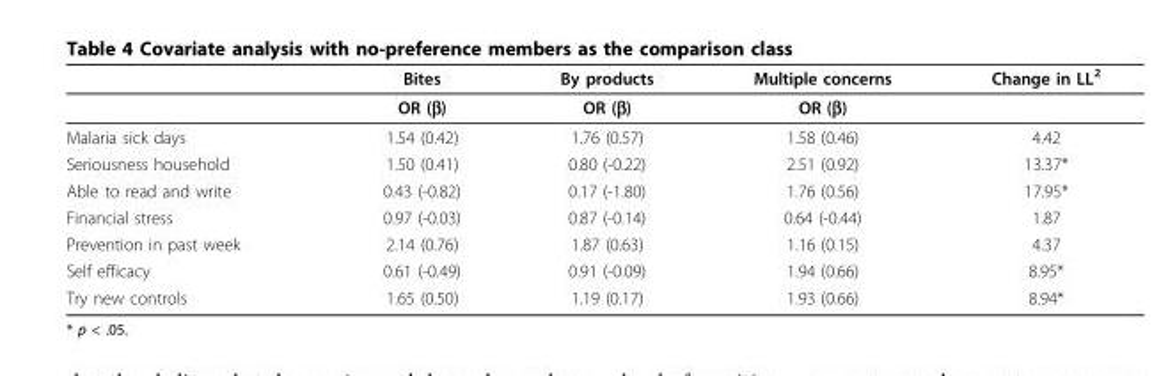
<table><thead><tr><td></td><td>Bites</td><td>By products</td><td>Multiple concerns</td><td>Change in LL<sup>2</sup></td></tr></thead><tbody><tr><td></td><td>OR (β)</td><td>OR (β)</td><td>OR (β)</td><td></td></tr><tr><td>Malaria sick days</td><td>1.54 (0.42)</td><td>1.76 (0.57)</td><td>1.58 (0.46)</td><td>4.42</td></tr><tr><td>Seriousness household</td><td>1.50 (0.41)</td><td>0.80 (-0.22)</td><td>2.51 (0.92)</td><td>13.37*</td></tr><tr><td>Able to read and write</td><td>0.43 (-0.82)</td><td>0.17 (-1.80)</td><td>1.76 (0.56)</td><td>17.95*</td></tr><tr><td>Financial stress</td><td>0.97 (-0.03)</td><td>0.87 (-0.14)</td><td>0.64 (-0.44)</td><td>1.87</td></tr><tr><td>Prevention in past week</td><td>2.14 (0.76)</td><td>1.87 (0.63)</td><td>1.16 (0.15)</td><td>4.37</td></tr><tr><td>Self efficacy</td><td>0.61 (-0.49)</td><td>0.91 (-0.09)</td><td>1.94 (0.66)</td><td>8.95*</td></tr><tr><td>Try new controls</td><td>1.65 (0.50)</td><td>1.19 (0.17)</td><td>1.93 (0.66)</td><td>8.94*</td></tr></tbody></table>